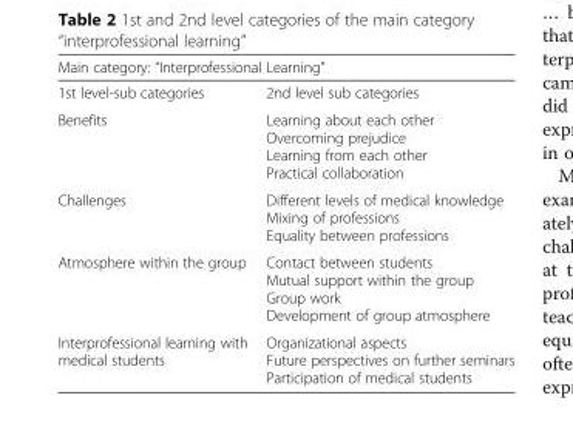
<table><thead><tr><td colspan="2">Main category: “Interprofessional Learning”</td></tr><tr><td>1st level-sub categories</td><td>2nd level sub categories</td></tr></thead><tbody><tr><td>Benefits</td><td>Learning about each other Overcoming prejudice Learning from each other Practical collaboration</td></tr><tr><td>Challenges</td><td>Different levels of medical knowledge Mixing of professions Equality between professions</td></tr><tr><td>Atmosphere within the group</td><td>Contact between students Mutual support within the group Group work Development of group atmosphere</td></tr><tr><td>Interprofessional learning with medical students</td><td>Organizational aspects Future perspectives on further seminars Participation of medical students</td></tr></tbody></table>